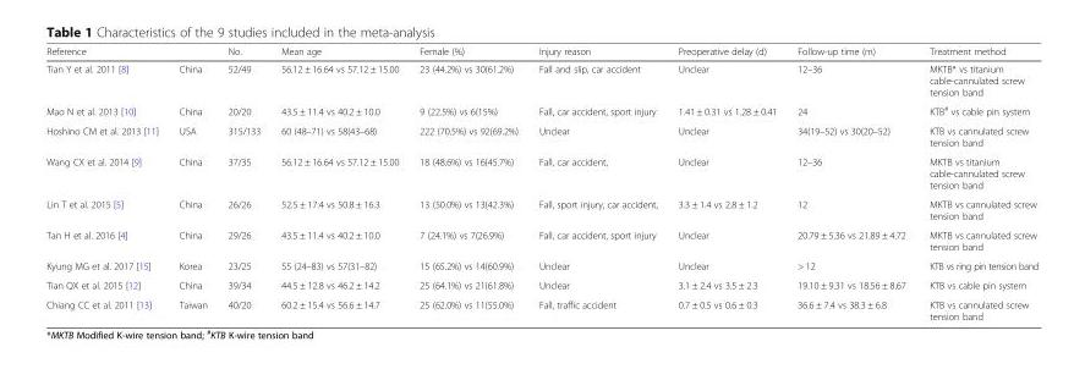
<table><thead><tr><td>Reference</td><td></td><td>No.</td><td>Mean age</td><td>Female (%)</td><td>Injury reason</td><td>Preoperative delay (d)</td><td>Follow-up time (m)</td><td>Treatment method</td></tr></thead><tbody><tr><td>Tian Y et al. 2011 [8]</td><td>China</td><td>52/49</td><td>56.12 ± 16.64 vs 57.12 ± 15.00</td><td>23 (44.2%) vs 30(61.2%)</td><td>Fall and slip, car accident</td><td>Unclear</td><td>12–36</td><td>MKTB* vs titanium cable-cannulated screw tension band</td></tr><tr><td>Mao N et al. 2013 [10]</td><td>China</td><td>20/20</td><td>43.5 ± 11.4 vs 40.2 ± 10.0</td><td>9 (22.5%) vs 6(15%)</td><td>Fall, car accident, sport injury</td><td>1.41 ± 0.31 vs 1.28 ± 0.41</td><td>24</td><td>KTB<sup>#</sup> vs cable pin system</td></tr><tr><td>Hoshino CM et al. 2013 [11]</td><td>USA</td><td>315/133</td><td>60 (48–71) vs 58(43–68)</td><td>222 (70.5%) vs 92(69.2%)</td><td>Unclear</td><td>Unclear</td><td>34(19–52) vs 30(20–52)</td><td>KTB vs cannulated screw tension band</td></tr><tr><td>Wang CX et al. 2014 [9]</td><td>China</td><td>37/35</td><td>56.12 ± 16.64 vs 57.12 ± 15.00</td><td>18 (48.6%) vs 16(45.7%)</td><td>Fall, car accident,</td><td>Unclear</td><td>12–36</td><td>MKTB vs titanium cable-cannulated screw tension band</td></tr><tr><td>Lin T et al. 2015 [5]</td><td>China</td><td>26/26</td><td>52.5 ± 17.4 vs 50.8 ± 16.3</td><td>13 (50.0%) vs 13(42.3%)</td><td>Fall, sport injury, car accident,</td><td>3.3 ± 1.4 vs 2.8 ± 1.2</td><td>12</td><td>MKTB vs cannulated screw tension band</td></tr><tr><td>Tan H et al. 2016 [4]</td><td>China</td><td>29/26</td><td>43.5 ± 11.4 vs 40.2 ± 10.0</td><td>7 (24.1%) vs 7(26.9%)</td><td>Fall, car accident, sport injury</td><td>Unclear</td><td>20.79 ± 5.36 vs 21.89 ± 4.72</td><td>MKTB vs cannulated screw tension band</td></tr><tr><td>Kyung MG et al. 2017 [15]</td><td>Korea</td><td>23/25</td><td>55 (24–83) vs 57(31–82)</td><td>15 (65.2%) vs 14(60.9%)</td><td>Unclear</td><td>Unclear</td><td>&gt; 12</td><td>KTB vs ring pin tension band</td></tr><tr><td>Tian QX et al. 2015 [12]</td><td>China</td><td>39/34</td><td>44.5 ± 12.8 vs 46.2 ± 14.2</td><td>25 (64.1%) vs 21(61.8%)</td><td>Unclear</td><td>3.1 ± 2.4 vs 3.5 ± 2.3</td><td>19.10 ± 9.31 vs 18.56 ± 8.67</td><td>KTB vs cable pin system</td></tr><tr><td>Chiang CC et al. 2011 [13]</td><td>Taiwan</td><td>40/20</td><td>60.2 ± 15.4 vs 56.6 ± 14.7</td><td>25 (62.0%) vs 11(55.0%)</td><td>Fall, traffic accident</td><td>0.7 ± 0.5 vs 0.6 ± 0.3</td><td>36.6 ± 7.4 vs 38.3 ± 6.8</td><td>KTB vs cannulated screw tension band</td></tr></tbody></table>